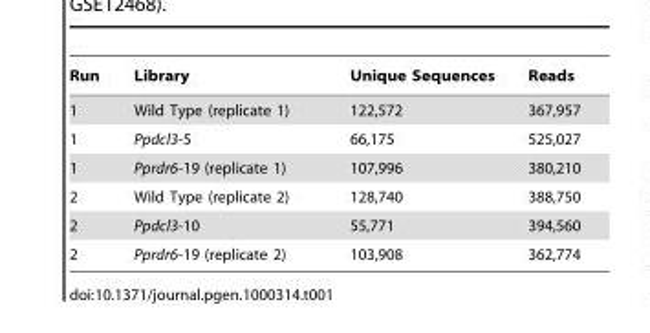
<table><thead><tr><td>Run</td><td>Library</td><td>Unique Sequences</td><td>Reads</td></tr></thead><tbody><tr><td>1</td><td>Wild Type (replicate 1)</td><td>122,572</td><td>367,957</td></tr><tr><td>1</td><td>Ppdcl3-5</td><td>66,175</td><td>525,027</td></tr><tr><td>1</td><td>Pprdr6-19 (replicate 1)</td><td>107,996</td><td>380,210</td></tr><tr><td>2</td><td>Wild Type (replicate 2)</td><td>128,740</td><td>388,750</td></tr><tr><td>2</td><td>Ppdcl3-10</td><td>55,771</td><td>394,560</td></tr><tr><td>2</td><td>Pprdr6-19 (replicate 2)</td><td>103,908</td><td>362,774</td></tr></tbody></table>